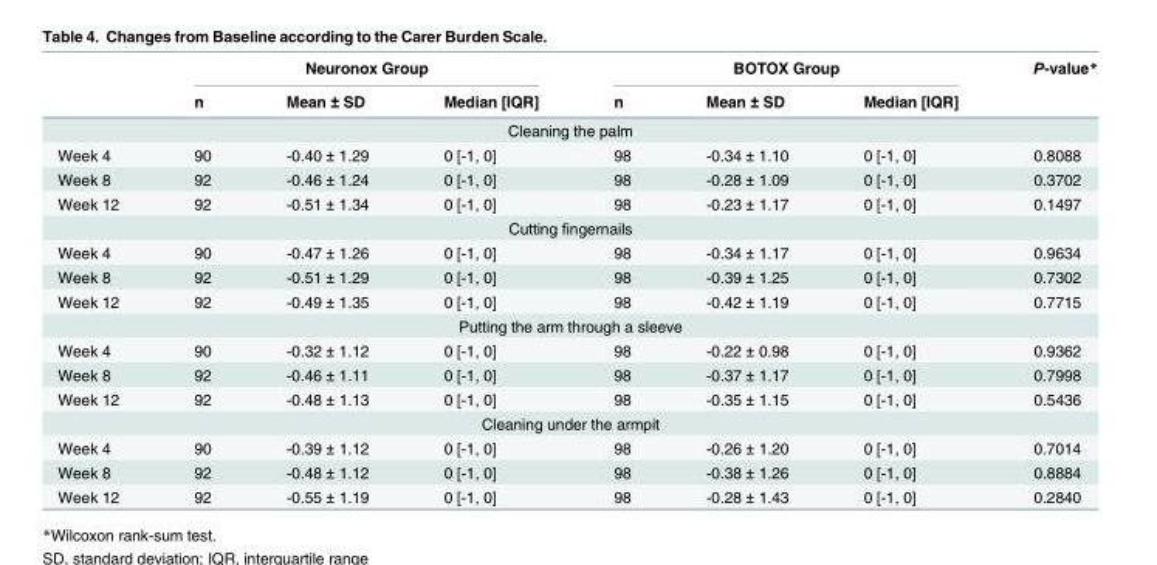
<table><thead><tr><td rowspan="2"></td><td colspan="3">Neuronox Group</td><td colspan="3">BOTOX Group</td><td rowspan="2">P-value*</td></tr><tr><td>n</td><td>Mean ± SD</td><td>Median [IQR]</td><td>n</td><td>Mean ± SD</td><td>Median [IQR]</td></tr></thead><tbody><tr><td colspan="8">Cleaning the palm</td></tr><tr><td>Week 4</td><td>90</td><td>-0.40 ± 1.29</td><td>0 [-1, 0]</td><td>98</td><td>-0.34 ± 1.10</td><td>0 [-1, 0]</td><td>0.8088</td></tr><tr><td>Week 8</td><td>92</td><td>-0.46 ± 1.24</td><td>0 [-1, 0]</td><td>98</td><td>-0.28 ± 1.09</td><td>0 [-1, 0]</td><td>0.3702</td></tr><tr><td>Week 12</td><td>92</td><td>-0.51 ± 1.34</td><td>0 [-1, 0]</td><td>98</td><td>-0.23 ± 1.17</td><td>0 [-1, 0]</td><td>0.1497</td></tr><tr><td colspan="8">Cutting fingernails</td></tr><tr><td>Week 4</td><td>90</td><td>-0.47 ± 1.26</td><td>0 [-1, 0]</td><td>98</td><td>-0.34 ± 1.17</td><td>0 [-1, 0]</td><td>0.9634</td></tr><tr><td>Week 8</td><td>92</td><td>-0.51 ± 1.29</td><td>0 [-1, 0]</td><td>98</td><td>-0.39 ± 1.25</td><td>0 [-1, 0]</td><td>0.7302</td></tr><tr><td>Week 12</td><td>92</td><td>-0.49 ± 1.35</td><td>0 [-1, 0]</td><td>98</td><td>-0.42 ± 1.19</td><td>0 [-1, 0]</td><td>0.7715</td></tr><tr><td colspan="8">Putting the arm through a sleeve</td></tr><tr><td>Week 4</td><td>90</td><td>-0.32 ± 1.12</td><td>0 [-1, 0]</td><td>98</td><td>-0.22 ± 0.98</td><td>0 [-1, 0]</td><td>0.9362</td></tr><tr><td>Week 8</td><td>92</td><td>-0.46 ± 1.11</td><td>0 [-1, 0]</td><td>98</td><td>-0.37 ± 1.17</td><td>0 [-1, 0]</td><td>0.7998</td></tr><tr><td>Week 12</td><td>92</td><td>-0.48 ± 1.13</td><td>0 [-1, 0]</td><td>98</td><td>-0.35 ± 1.15</td><td>0 [-1, 0]</td><td>0.5436</td></tr><tr><td colspan="8">Cleaning under the armpit</td></tr><tr><td>Week 4</td><td>90</td><td>-0.39 ± 1.12</td><td>0 [-1, 0]</td><td>98</td><td>-0.26 ± 1.20</td><td>0 [-1, 0]</td><td>0.7014</td></tr><tr><td>Week 8</td><td>92</td><td>-0.48 ± 1.12</td><td>0 [-1, 0]</td><td>98</td><td>-0.38 ± 1.26</td><td>0 [-1, 0]</td><td>0.8884</td></tr><tr><td>Week 12</td><td>92</td><td>-0.55 ± 1.19</td><td>0 [-1, 0]</td><td>98</td><td>-0.28 ± 1.43</td><td>0 [-1, 0]</td><td>0.2840</td></tr></tbody></table>